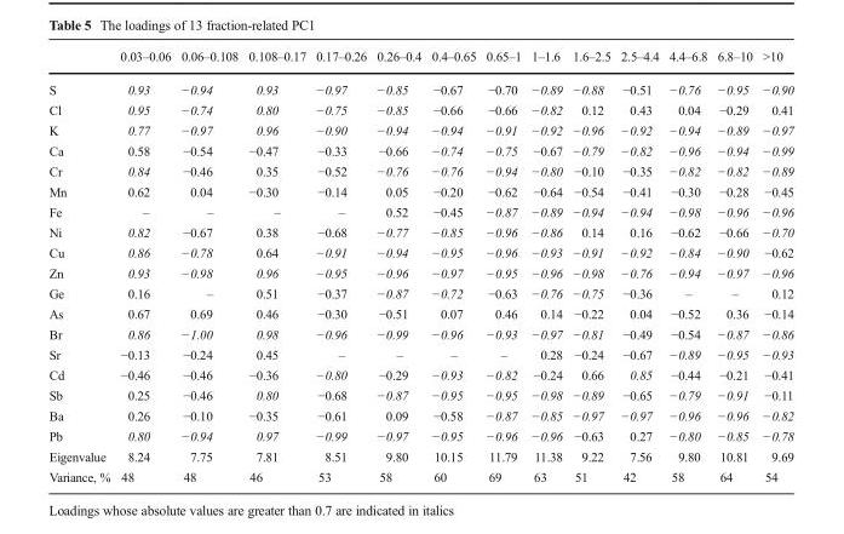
<table><thead><tr><td></td><td>0.03–0.06</td><td>0.06–0.108</td><td>0.108–0.17</td><td>0.17–0.26</td><td>0.26–0.4</td><td>0.4–0.65</td><td>0.65–1</td><td>1–1.6</td><td>1.6–2.5</td><td>2.5–4.4</td><td>4.4–6.8</td><td>6.8–10</td><td>&gt;10</td></tr></thead><tbody><tr><td>S</td><td>0.93</td><td>−0.94</td><td>0.93</td><td>−0.97</td><td>−0.85</td><td>−0.67</td><td>−0.70</td><td>−0.89</td><td>−0.88</td><td>−0.51</td><td>−0.76</td><td>−0.95</td><td>−0.90</td></tr><tr><td>Cl</td><td>0.95</td><td>−0.74</td><td>0.80</td><td>−0.75</td><td>−0.85</td><td>−0.66</td><td>−0.66</td><td>−0.82</td><td>0.12</td><td>0.43</td><td>0.04</td><td>−0.29</td><td>0.41</td></tr><tr><td>K</td><td>0.77</td><td>−0.97</td><td>0.96</td><td>−0.90</td><td>−0.94</td><td>−0.94</td><td>−0.91</td><td>−0.92</td><td>−0.96</td><td>−0.92</td><td>−0.94</td><td>−0.89</td><td>−0.97</td></tr><tr><td>Ca</td><td>0.58</td><td>−0.54</td><td>−0.47</td><td>−0.33</td><td>−0.66</td><td>−0.74</td><td>−0.75</td><td>−0.67</td><td>−0.79</td><td>−0.82</td><td>−0.96</td><td>−0.94</td><td>−0.99</td></tr><tr><td>Cr</td><td>0.84</td><td>−0.46</td><td>0.35</td><td>−0.52</td><td>−0.76</td><td>−0.76</td><td>−0.94</td><td>−0.80</td><td>−0.10</td><td>−0.35</td><td>−0.82</td><td>−0.82</td><td>−0.89</td></tr><tr><td>Mn</td><td>0.62</td><td>0.04</td><td>−0.30</td><td>−0.14</td><td>0.05</td><td>−0.20</td><td>−0.62</td><td>−0.64</td><td>−0.54</td><td>−0.41</td><td>−0.30</td><td>−0.28</td><td>−0.45</td></tr><tr><td>Fe</td><td>–</td><td>–</td><td>–</td><td>–</td><td>0.52</td><td>−0.45</td><td>−0.87</td><td>−0.89</td><td>−0.94</td><td>−0.94</td><td>−0.98</td><td>−0.96</td><td>−0.96</td></tr><tr><td>Ni</td><td>0.82</td><td>−0.67</td><td>0.38</td><td>−0.68</td><td>−0.77</td><td>−0.85</td><td>−0.96</td><td>−0.86</td><td>0.14</td><td>0.16</td><td>−0.62</td><td>−0.66</td><td>−0.70</td></tr><tr><td>Cu</td><td>0.86</td><td>−0.78</td><td>0.64</td><td>−0.91</td><td>−0.94</td><td>−0.95</td><td>−0.96</td><td>−0.93</td><td>−0.91</td><td>−0.92</td><td>−0.84</td><td>−0.90</td><td>−0.62</td></tr><tr><td>Zn</td><td>0.93</td><td>−0.98</td><td>0.96</td><td>−0.95</td><td>−0.96</td><td>−0.97</td><td>−0.95</td><td>−0.96</td><td>−0.98</td><td>−0.76</td><td>−0.94</td><td>−0.97</td><td>−0.96</td></tr><tr><td>Ge</td><td>0.16</td><td>–</td><td>0.51</td><td>−0.37</td><td>−0.87</td><td>−0.72</td><td>−0.63</td><td>−0.76</td><td>−0.75</td><td>−0.36</td><td>–</td><td>–</td><td>0.12</td></tr><tr><td>As</td><td>0.67</td><td>0.69</td><td>0.46</td><td>−0.30</td><td>−0.51</td><td>0.07</td><td>0.46</td><td>0.14</td><td>−0.22</td><td>0.04</td><td>−0.52</td><td>0.36</td><td>−0.14</td></tr><tr><td>Br</td><td>0.86</td><td>−1.00</td><td>0.98</td><td>−0.96</td><td>−0.99</td><td>−0.96</td><td>−0.93</td><td>−0.97</td><td>−0.81</td><td>−0.49</td><td>−0.54</td><td>−0.87</td><td>−0.86</td></tr><tr><td>Sr</td><td>−0.13</td><td>−0.24</td><td>0.45</td><td>–</td><td>–</td><td>–</td><td>–</td><td>0.28</td><td>−0.24</td><td>−0.67</td><td>−0.89</td><td>−0.95</td><td>−0.93</td></tr><tr><td>Cd</td><td>−0.46</td><td>−0.46</td><td>−0.36</td><td>−0.80</td><td>−0.29</td><td>−0.93</td><td>−0.82</td><td>−0.24</td><td>0.66</td><td>0.85</td><td>−0.44</td><td>−0.21</td><td>−0.41</td></tr><tr><td>Sb</td><td>0.25</td><td>−0.46</td><td>0.80</td><td>−0.68</td><td>−0.87</td><td>−0.95</td><td>−0.95</td><td>−0.98</td><td>−0.89</td><td>−0.65</td><td>−0.79</td><td>−0.91</td><td>−0.11</td></tr><tr><td>Ba</td><td>0.26</td><td>−0.10</td><td>−0.35</td><td>−0.61</td><td>0.09</td><td>−0.58</td><td>−0.87</td><td>−0.85</td><td>−0.97</td><td>−0.97</td><td>−0.96</td><td>−0.96</td><td>−0.82</td></tr><tr><td>Pb</td><td>0.80</td><td>−0.94</td><td>0.97</td><td>−0.99</td><td>−0.97</td><td>−0.95</td><td>−0.96</td><td>−0.96</td><td>−0.63</td><td>0.27</td><td>−0.80</td><td>−0.85</td><td>−0.78</td></tr><tr><td>Eigenvalue</td><td>8.24</td><td>7.75</td><td>7.81</td><td>8.51</td><td>9.80</td><td>10.15</td><td>11.79</td><td>11.38</td><td>9.22</td><td>7.56</td><td>9.80</td><td>10.81</td><td>9.69</td></tr><tr><td>Variance, %</td><td>48</td><td>48</td><td>46</td><td>53</td><td>58</td><td>60</td><td>69</td><td>63</td><td>51</td><td>42</td><td>58</td><td>64</td><td>54</td></tr></tbody></table>